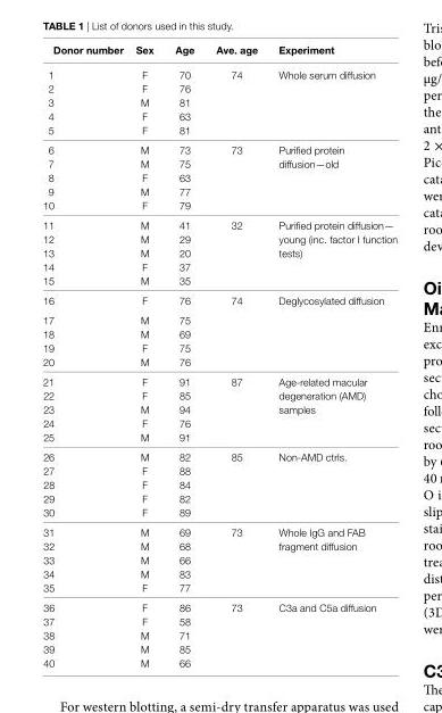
<table><thead><tr><td>Donor number</td><td>sex</td><td>age</td><td>ave. age</td><td>experiment</td></tr></thead><tbody><tr><td>1</td><td>F</td><td>70</td><td rowspan="5">74</td><td rowspan="5">Whole serum diffusion</td></tr><tr><td>2</td><td>F</td><td>76</td></tr><tr><td>3</td><td>M</td><td>81</td></tr><tr><td>4</td><td>F</td><td>63</td></tr><tr><td>5</td><td>F</td><td>81</td></tr><tr><td>6</td><td>M</td><td>73</td><td rowspan="5">73</td><td rowspan="5">Purified protein diffusion—old</td></tr><tr><td>7</td><td>M</td><td>75</td></tr><tr><td>8</td><td>F</td><td>63</td></tr><tr><td>9</td><td>M</td><td>77</td></tr><tr><td>10</td><td>F</td><td>79</td></tr><tr><td>11</td><td>M</td><td>41</td><td rowspan="5">32</td><td rowspan="5">Purified protein diffusion— young (inc. factor I function tests)</td></tr><tr><td>12</td><td>M</td><td>29</td></tr><tr><td>13</td><td>M</td><td>20</td></tr><tr><td>14</td><td>F</td><td>37</td></tr><tr><td>15</td><td>M</td><td>35</td></tr><tr><td>16</td><td>F</td><td>76</td><td rowspan="5">74</td><td rowspan="5">Deglycosylated diffusion</td></tr><tr><td>17</td><td>M</td><td>75</td></tr><tr><td>18</td><td>M</td><td>69</td></tr><tr><td>19</td><td>F</td><td>75</td></tr><tr><td>20</td><td>M</td><td>76</td></tr><tr><td>21</td><td>F</td><td>91</td><td rowspan="5">87</td><td rowspan="5">Age-related macular degeneration (AMD) samples</td></tr><tr><td>22</td><td>F</td><td>85</td></tr><tr><td>23</td><td>M</td><td>94</td></tr><tr><td>24</td><td>F</td><td>76</td></tr><tr><td>25</td><td>M</td><td>91</td></tr><tr><td>26</td><td>M</td><td>82</td><td rowspan="5">85</td><td rowspan="5">Non-AMD ctrls.</td></tr><tr><td>27</td><td>F</td><td>88</td></tr><tr><td>28</td><td>F</td><td>84</td></tr><tr><td>29</td><td>F</td><td>82</td></tr><tr><td>30</td><td>F</td><td>89</td></tr><tr><td>31</td><td>M</td><td>69</td><td rowspan="5">73</td><td rowspan="5">Whole IgG and FAB fragment diffusion</td></tr><tr><td>32</td><td>M</td><td>68</td></tr><tr><td>33</td><td>M</td><td>66</td></tr><tr><td>34</td><td>M</td><td>83</td></tr><tr><td>35</td><td>F</td><td>77</td></tr><tr><td>36</td><td>F</td><td>86</td><td rowspan="5">73</td><td rowspan="5">C3a and C5a diffusion</td></tr><tr><td>37</td><td>F</td><td>58</td></tr><tr><td>38</td><td>M</td><td>71</td></tr><tr><td>39</td><td>M</td><td>85</td></tr><tr><td>40</td><td>M</td><td>66</td></tr></tbody></table>